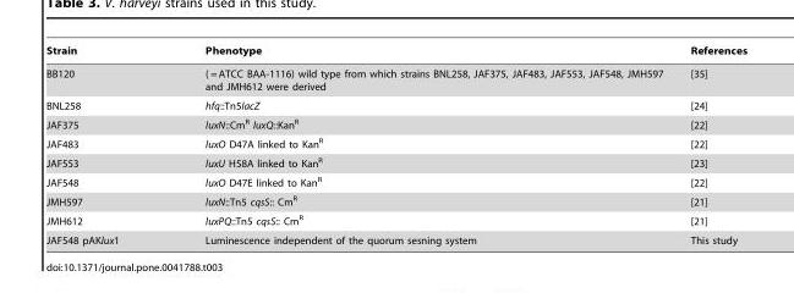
<table><thead><tr><td>Strain</td><td>Phenotype</td><td>References</td></tr></thead><tbody><tr><td>BB120</td><td>( = ATCC BAA-1116) wild type from which strains BNL258, JAF375, JAF483, JAF553, JAF548, JMH597 and JMH612 were derived</td><td>[35]</td></tr><tr><td>BNL258</td><td>hfq::Tn5lacZ</td><td>[24]</td></tr><tr><td>JAF375</td><td>luxN::Cm<sup>R</sup> luxQ::Kan<sup>R</sup></td><td>[22]</td></tr><tr><td>JAF483</td><td>luxO D47A linked to Kan<sup>R</sup></td><td>[22]</td></tr><tr><td>JAF553</td><td>luxU H58A linked to Kan<sup>R</sup></td><td>[23]</td></tr><tr><td>JAF548</td><td>luxO D47E linked to Kan<sup>R</sup></td><td>[22]</td></tr><tr><td>JMH597</td><td>luxN::Tn5 cqsS:: Cm<sup>R</sup></td><td>[21]</td></tr><tr><td>JMH612</td><td>luxPQ::Tn5 cqsS:: Cm<sup>R</sup></td><td>[21]</td></tr><tr><td>JAF548 pAKlux1</td><td>Luminescence independent of the quorum sesning system</td><td>This study</td></tr></tbody></table>